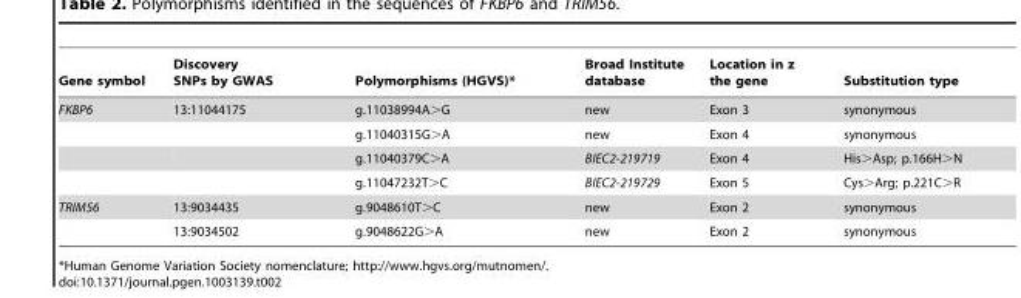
<table><thead><tr><td>Gene symbol</td><td>Discovery SNPs by GWAS</td><td>Polymorphisms (HGVS)*</td><td>Broad Institute database</td><td>Location in z the gene</td><td>Substitution type</td></tr></thead><tbody><tr><td rowspan="4">FKBP6</td><td>13:11044175</td><td>g.11038994A&gt;G</td><td>new</td><td>Exon 3</td><td>synonymous</td></tr><tr><td></td><td>g.11040315G&gt;A</td><td>new</td><td>Exon 4</td><td>synonymous</td></tr><tr><td></td><td>g.11040379C&gt;A</td><td>BIEC2-219719</td><td>Exon 4</td><td>His&gt;Asp; p.166H&gt;N</td></tr><tr><td></td><td>g.11047232T&gt;C</td><td>BIEC2-219729</td><td>Exon 5</td><td>Cys&gt;Arg; p.221C&gt;R</td></tr><tr><td rowspan="2">TRIM56</td><td>13:9034435</td><td>g.9048610T&gt;C</td><td>new</td><td>Exon 2</td><td>synonymous</td></tr><tr><td>13:9034502</td><td>g.9048622G&gt;A</td><td>new</td><td>Exon 2</td><td>synonymous</td></tr></tbody></table>